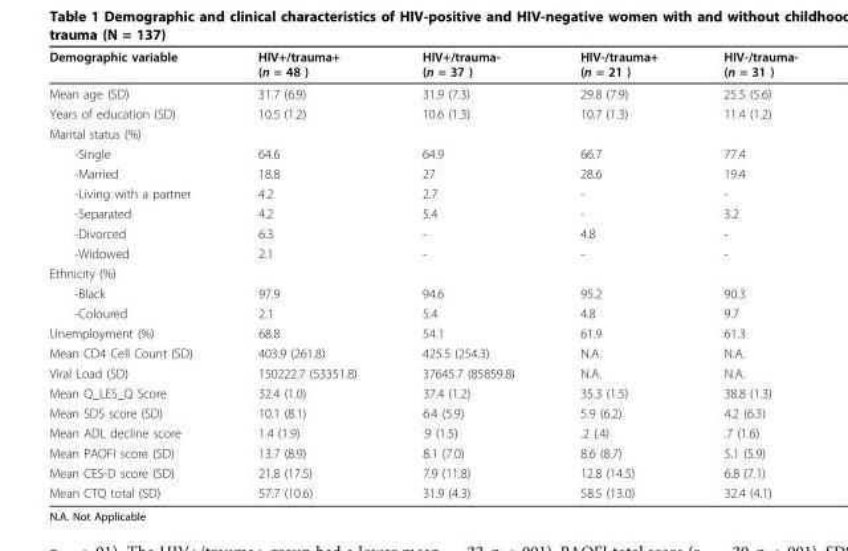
<table><thead><tr><td>Demographic variable</td><td>HIV+/trauma+ (n = 48 )</td><td>HIV+/trauma- (n = 37 )</td><td>HIV-/trauma+ (n = 21 )</td><td>HIV-/trauma- (n = 31 )</td></tr></thead><tbody><tr><td>Mean age (SD)</td><td>31.7 (6.9)</td><td>31.9 (7.3)</td><td>29.8 (7.9)</td><td>25.5 (5.6)</td></tr><tr><td>Years of education (SD)</td><td>10.5 (1.2)</td><td>10.6 (1.3)</td><td>10.7 (1.3)</td><td>11.4 (1.2)</td></tr><tr><td colspan="5">Marital status (%)</td></tr><tr><td>-Single</td><td>64.6</td><td>64.9</td><td>66.7</td><td>77.4</td></tr><tr><td>-Married</td><td>18.8</td><td>27</td><td>28.6</td><td>19.4</td></tr><tr><td>-Living with a partner</td><td>4.2</td><td>2.7</td><td>-</td><td>-</td></tr><tr><td>-Separated</td><td>4.2</td><td>5.4</td><td>-</td><td>3.2</td></tr><tr><td>-Divorced</td><td>6.3</td><td>-</td><td>4.8</td><td>-</td></tr><tr><td>-Widowed</td><td>2.1</td><td>-</td><td>-</td><td>-</td></tr><tr><td colspan="5">Ethnicity (%)</td></tr><tr><td>-Black</td><td>97.9</td><td>94.6</td><td>95.2</td><td>90.3</td></tr><tr><td>-Coloured</td><td>2.1</td><td>5.4</td><td>4.8</td><td>9.7</td></tr><tr><td>Unemployment (%)</td><td>68.8</td><td>54.1</td><td>61.9</td><td>61.3</td></tr><tr><td>Mean CD4 Cell Count (SD)</td><td>403.9 (261.8)</td><td>425.5 (254.3)</td><td>N.A.</td><td>N.A.</td></tr><tr><td>Viral Load (SD)</td><td>150222.7 (53351.8)</td><td>37645.7 (85859.8)</td><td>N.A.</td><td>N.A.</td></tr><tr><td>Mean Q_LES_Q Score</td><td>32.4 (1.0)</td><td>37.4 (1.2)</td><td>35.3 (1.5)</td><td>38.8 (1.3)</td></tr><tr><td>Mean SDS score (SD)</td><td>10.1 (8.1)</td><td>6.4 (5.9)</td><td>5.9 (6.2)</td><td>4.2 (6.3)</td></tr><tr><td>Mean ADL decline score</td><td>1.4 (1.9)</td><td>.9 (1.5)</td><td>.2 (.4)</td><td>.7 (1.6)</td></tr><tr><td>Mean PAOFI score (SD)</td><td>13.7 (8.9)</td><td>8.1 (7.0)</td><td>8.6 (8.7)</td><td>5.1 (5.9)</td></tr><tr><td>Mean CES-D score (SD)</td><td>21.8 (17.5)</td><td>7.9 (11.8)</td><td>12.8 (14.5)</td><td>6.8 (7.1)</td></tr><tr><td>Mean CTQ total (SD)</td><td>57.7 (10.6)</td><td>31.9 (4.3)</td><td>58.5 (13.0)</td><td>32.4 (4.1)</td></tr></tbody></table>